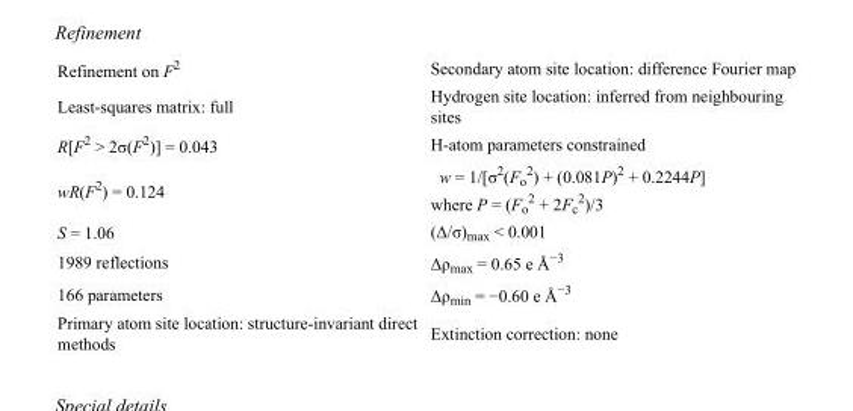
<table><tbody><tr><td>Refinement on F<sup>2</sup></td><td>Secondary atom site location: difference Fourier map</td></tr><tr><td>Least-squares matrix: full</td><td>Hydrogen site location: inferred from neighbouring sites</td></tr><tr><td>R[F<sup>2</sup> &gt; 2σ(F<sup>2</sup>)] = 0.043</td><td>H-atom parameters constrained</td></tr><tr><td>wR(F<sup>2</sup>) = 0.124</td><td>w = 1/[σ<sup>2</sup>(F<sub>o</sub> <sup>2</sup>) + (0.081P)<sup>2</sup> + 0.2244P] where P = (F<sub>o</sub> <sup>2</sup> + 2F<sub>c</sub> <sup>2</sup>)/3</td></tr><tr><td>S = 1.06</td><td>(Δ/σ)<sub>max</sub> &lt; 0.001</td></tr><tr><td>1989 reflections</td><td>Δρ<sub>max</sub> = 0.65 e Å<sup>−3</sup></td></tr><tr><td>166 parameters</td><td>Δρ<sub>min</sub> = −0.60 e Å<sup>−3</sup></td></tr><tr><td>Primary atom site location: structure-invariant direct methods</td><td>Extinction correction: none</td></tr></tbody></table>